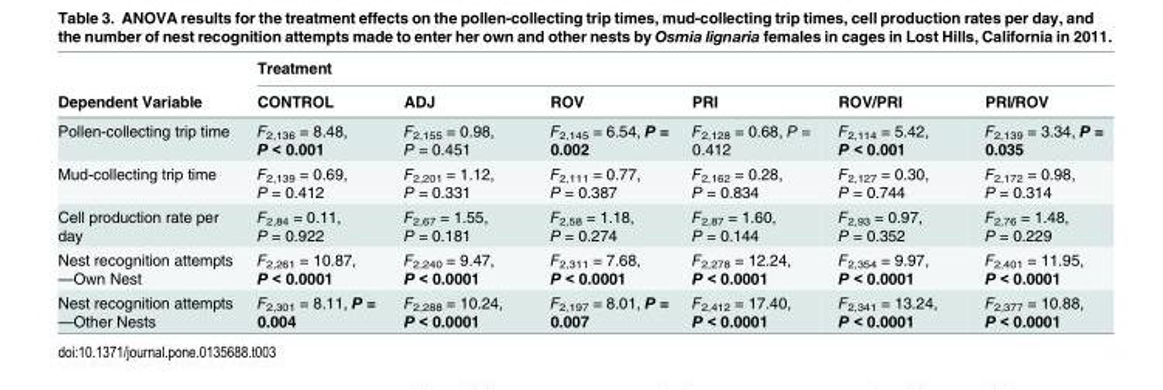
<table><thead><tr><td rowspan="2">Dependent Variable</td><td colspan="6">Treatment</td></tr><tr><td>CONTROL</td><td>ADJ</td><td>ROV</td><td>PRI</td><td>ROV/PRI</td><td>PRI/ROV</td></tr></thead><tbody><tr><td>Pollen-collecting trip time</td><td>F<sub>2,136</sub> = 8.48, P &lt; 0.001</td><td>F<sub>2,155</sub> = 0.98, P = 0.451</td><td>F<sub>2,145</sub> = 6.54, P = 0.002</td><td>F<sub>2,128</sub> = 0.68, P = 0.412</td><td>F<sub>2,114</sub> = 5.42, P &lt; 0.001</td><td>F<sub>2,139</sub> = 3.34, P = 0.035</td></tr><tr><td>Mud-collecting trip time</td><td>F<sub>2,139</sub> = 0.69, P = 0.412</td><td>F<sub>2,201</sub> = 1.12, P = 0.331</td><td>F<sub>2,111</sub> = 0.77, P = 0.387</td><td>F<sub>2,162</sub> = 0.28, P = 0.834</td><td>F<sub>2,127</sub> = 0.30, P = 0.744</td><td>F<sub>2,172</sub> = 0.98, P = 0.314</td></tr><tr><td>Cell production rate per day</td><td>F<sub>2,84</sub> = 0.11, P = 0.922</td><td>F<sub>2,67</sub> = 1.55, P = 0.181</td><td>F<sub>2,58</sub> = 1.18, P = 0.274</td><td>F<sub>2,87</sub> = 1.60, P = 0.144</td><td>F<sub>2,93</sub> = 0.97, P = 0.352</td><td>F<sub>2,76</sub> = 1.48, P = 0.229</td></tr><tr><td>Nest recognition attempts —Own Nest</td><td>F<sub>2,261</sub> = 10.87, P &lt; 0.0001</td><td>F<sub>2,240</sub> = 9.47, P &lt; 0.0001</td><td>F<sub>2,311</sub> = 7.68, P &lt; 0.0001</td><td>F<sub>2,278</sub> = 12.24, P &lt; 0.0001</td><td>F<sub>2,354</sub> = 9.97, P &lt; 0.0001</td><td>F<sub>2,401</sub> = 11.95, P &lt; 0.0001</td></tr><tr><td>Nest recognition attempts —Other Nests</td><td>F<sub>2,301</sub> = 8.11, P = 0.004</td><td>F<sub>2,288</sub> = 10.24, P &lt; 0.0001</td><td>F<sub>2,197</sub> = 8.01, P = 0.007</td><td>F<sub>2,412</sub> = 17.40, P &lt; 0.0001</td><td>F<sub>2,341</sub> = 13.24, P &lt; 0.0001</td><td>F<sub>2,377</sub> = 10.88, P &lt; 0.0001</td></tr></tbody></table>